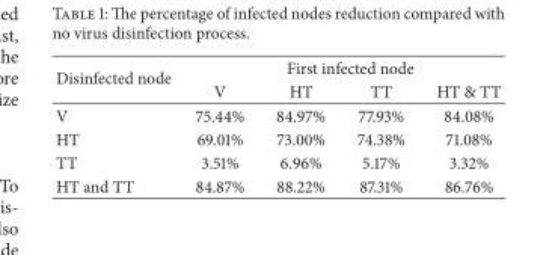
<table><thead><tr><td rowspan="2">Disinfected node</td><td colspan="4">First infected node</td></tr><tr><td>V</td><td>HT</td><td>TT</td><td>HT &amp; TT</td></tr></thead><tbody><tr><td>V</td><td>75.44%</td><td>84.97%</td><td>77.93%</td><td>84.08%</td></tr><tr><td>HT</td><td>69.01%</td><td>73.00%</td><td>74.38%</td><td>71.08%</td></tr><tr><td>TT</td><td>3.51%</td><td>6.96%</td><td>5.17%</td><td>3.32%</td></tr><tr><td>HT and TT</td><td>84.87%</td><td>88.22%</td><td>87.31%</td><td>86.76%</td></tr></tbody></table>